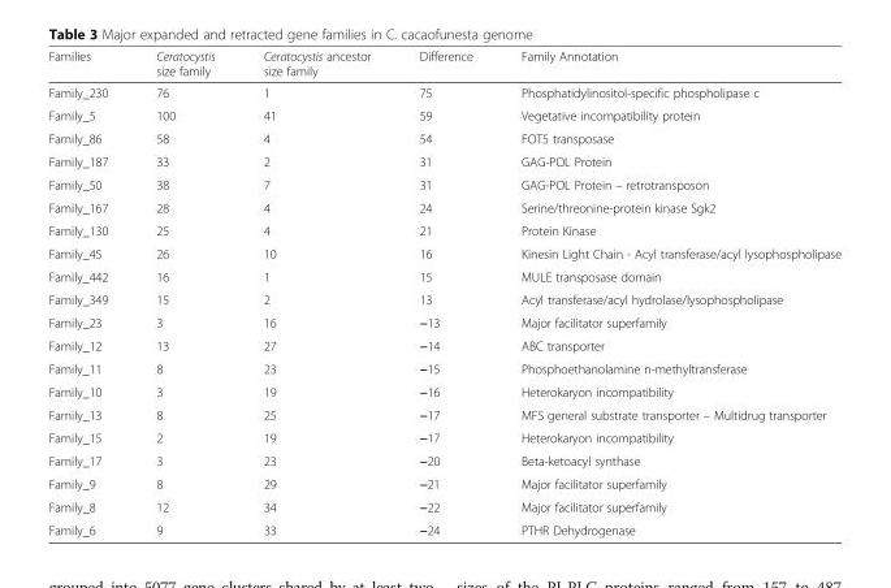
<table><thead><tr><td>Families</td><td>Ceratocystis size family</td><td>Ceratocystis ancestor size family</td><td>Difference</td><td>Family Annotation</td></tr></thead><tbody><tr><td>Family_230</td><td>76</td><td>1</td><td>75</td><td>Phosphatidylinositol-specific phospholipase c</td></tr><tr><td>Family_5</td><td>100</td><td>41</td><td>59</td><td>Vegetative incompatibility protein</td></tr><tr><td>Family_86</td><td>58</td><td>4</td><td>54</td><td>FOT5 transposase</td></tr><tr><td>Family_187</td><td>33</td><td>2</td><td>31</td><td>GAG-POL Protein</td></tr><tr><td>Family_50</td><td>38</td><td>7</td><td>31</td><td>GAG-POL Protein – retrotransposon</td></tr><tr><td>Family_167</td><td>28</td><td>4</td><td>24</td><td>Serine/threonine-protein kinase Sgk2</td></tr><tr><td>Family_130</td><td>25</td><td>4</td><td>21</td><td>Protein Kinase</td></tr><tr><td>Family_45</td><td>26</td><td>10</td><td>16</td><td>Kinesin Light Chain - Acyl transferase/acyl lysophospholipase</td></tr><tr><td>Family_442</td><td>16</td><td>1</td><td>15</td><td>MULE transposase domain</td></tr><tr><td>Family_349</td><td>15</td><td>2</td><td>13</td><td>Acyl transferase/acyl hydrolase/lysophospholipase</td></tr><tr><td>Family_23</td><td>3</td><td>16</td><td>−13</td><td>Major facilitator superfamily</td></tr><tr><td>Family_12</td><td>13</td><td>27</td><td>−14</td><td>ABC transporter</td></tr><tr><td>Family_11</td><td>8</td><td>23</td><td>−15</td><td>Phosphoethanolamine n-methyltransferase</td></tr><tr><td>Family_10</td><td>3</td><td>19</td><td>−16</td><td>Heterokaryon incompatibility</td></tr><tr><td>Family_13</td><td>8</td><td>25</td><td>−17</td><td>MFS general substrate transporter – Multidrug transporter</td></tr><tr><td>Family_15</td><td>2</td><td>19</td><td>−17</td><td>Heterokaryon incompatibility</td></tr><tr><td>Family_17</td><td>3</td><td>23</td><td>−20</td><td>Beta-ketoacyl synthase</td></tr><tr><td>Family_9</td><td>8</td><td>29</td><td>−21</td><td>Major facilitator superfamily</td></tr><tr><td>Family_8</td><td>12</td><td>34</td><td>−22</td><td>Major facilitator superfamily</td></tr><tr><td>Family_6</td><td>9</td><td>33</td><td>−24</td><td>PTHR Dehydrogenase</td></tr></tbody></table>